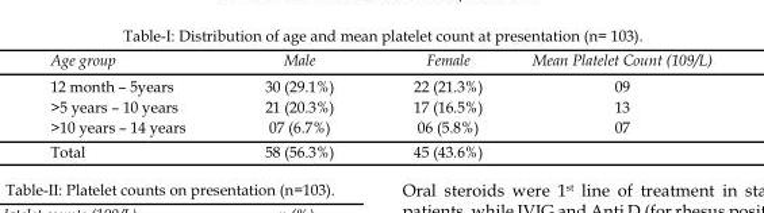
<table><thead><tr><td>Age group</td><td>Male</td><td>Female</td><td>Mean Platelet Count (10<sup>9</sup>/L)</td></tr></thead><tbody><tr><td>12 month – 5years</td><td>30 (29.1%)</td><td>22 (21.3%)</td><td>09</td></tr><tr><td>&gt;5 years – 10 years</td><td>21 (20.3%)</td><td>17 (16.5%)</td><td>13</td></tr><tr><td>&gt;10 years – 14 years</td><td>07 (6.7%)</td><td>06 (5.8%)</td><td>07</td></tr><tr><td>Total</td><td>58 (56.3%)</td><td>45 (43.6%)</td><td></td></tr></tbody></table>